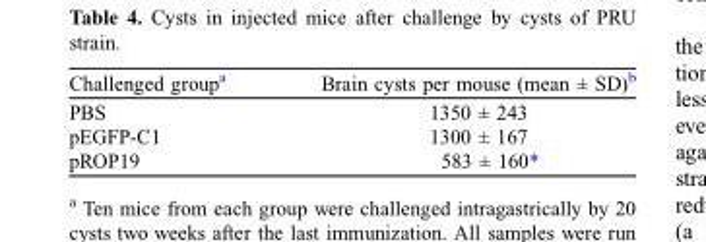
<table><thead><tr><td>Challenged group<sup>a</sup></td><td>Brain cysts per mouse (mean ± SD)<sup>b</sup></td></tr></thead><tbody><tr><td>PBS</td><td>1350 ± 243</td></tr><tr><td>pEGFP-C1</td><td>1300 ± 167</td></tr><tr><td>pROP19</td><td>583 ± 160*</td></tr></tbody></table>